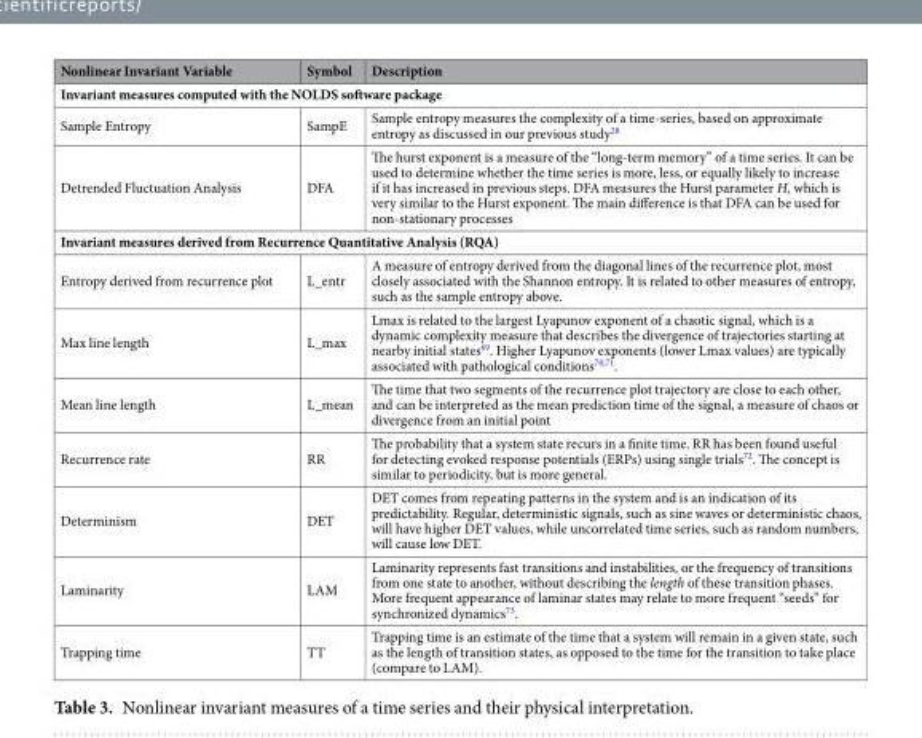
<table><thead><tr><td>Nonlinear Invariant Variable</td><td>Symbol</td><td>Description</td></tr></thead><tbody><tr><td colspan="3">Invariant measures computed with the NOLDS software package</td></tr><tr><td>Sample Entropy</td><td>SampE</td><td>Sample entropy measures the complexity of a time-series, based on approximate entropy as discussed in our previous study<sup>28</sup></td></tr><tr><td>Detrended Fluctuation Analysis</td><td>DFA</td><td>The hurst exponent is a measure of the “long-term memory” of a time series. It can be used to determine whether the time series is more, less, or equally likely to increase if it has increased in previous steps. DFA measures the Hurst parameter H, which is very similar to the Hurst exponent. The main difference is that DFA can be used for non-stationary processes</td></tr><tr><td colspan="3">Invariant measures derived from Recurrence Quantitative Analysis (RQA)</td></tr><tr><td>Entropy derived from recurrence plot</td><td>L_entr</td><td>A measure of entropy derived from the diagonal lines of the recurrence plot, most closely associated with the Shannon entropy. It is related to other measures of entropy, such as the sample entropy above.</td></tr><tr><td>Max line length</td><td>L_max</td><td>Lmax is related to the largest Lyapunov exponent of a chaotic signal, which is a dynamic complexity measure that describes the divergence of trajectories starting at nearby initial states<sup>69</sup>. Higher Lyapunov exponents (lower Lmax values) are typically associated with pathological conditions<sup>70,71</sup>.</td></tr><tr><td>Mean line length</td><td>L_mean</td><td>The time that two segments of the recurrence plot trajectory are close to each other, and can be interpreted as the mean prediction time of the signal, a measure of chaos or divergence from an initial point</td></tr><tr><td>Recurrence rate</td><td>RR</td><td>The probability that a system state recurs in a finite time. RR has been found useful for detecting evoked response potentials (ERPs) using single trials<sup>72</sup>. The concept is similar to periodicity, but is more general.</td></tr><tr><td>Determinism</td><td>DET</td><td>DET comes from repeating patterns in the system and is an indication of its predictability. Regular, deterministic signals, such as sine waves or deterministic chaos, will have higher DET values, while uncorrelated time series, such as random numbers, will cause low DET.</td></tr><tr><td>Laminarity</td><td>LAM</td><td>Laminarity represents fast transitions and instabilities, or the frequency of transitions from one state to another, without describing the length of these transition phases. More frequent appearance of laminar states may relate to more frequent “seeds” for synchronized dynamics<sup>73</sup>.</td></tr><tr><td>Trapping time</td><td>TT</td><td>Trapping time is an estimate of the time that a system will remain in a given state, such as the length of transition states, as opposed to the time for the transition to take place (compare to LAM).</td></tr></tbody></table>